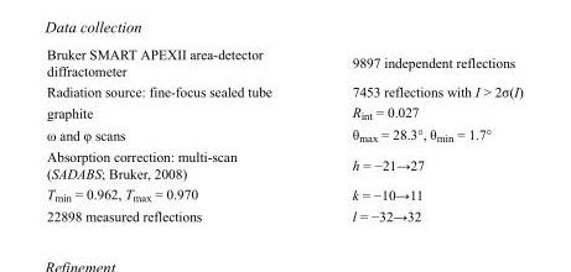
<table><tbody><tr><td>Bruker SMART APEXII area-detector diffractometer</td><td>9897 independent reflections</td></tr><tr><td>Radiation source: fine-focus sealed tube</td><td>7453 reflections with I &gt; 2σ(I)</td></tr><tr><td>graphite</td><td>R<sub>int</sub> = 0.027</td></tr><tr><td>ω and φ scans</td><td>θ<sub>max</sub> = 28.3°, θ<sub>min</sub> = 1.7°</td></tr><tr><td>Absorption correction: multi-scan (SADABS; Bruker, 2008)</td><td>h = −21→27</td></tr><tr><td>T<sub>min</sub> = 0.962, T<sub>max</sub> = 0.970</td><td>k = −10→11</td></tr><tr><td>22898 measured reflections</td><td>l = −32→32</td></tr></tbody></table>